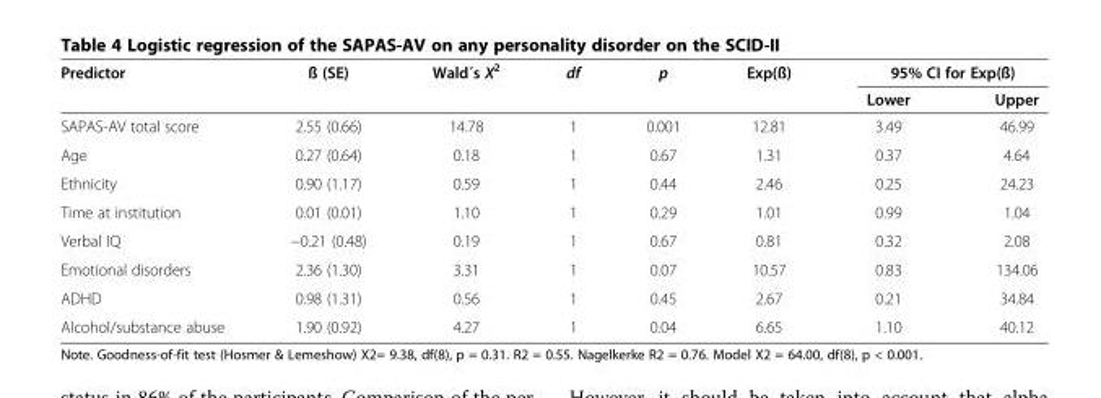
<table><thead><tr><td rowspan="2">Predictor</td><td rowspan="2">ß (SE)</td><td rowspan="2">Wald´s X2</td><td rowspan="2">df</td><td rowspan="2">p</td><td rowspan="2">Exp(ß)</td><td colspan="2">95% CI for Exp(ß)</td></tr><tr><td>Lower</td><td>Upper</td></tr></thead><tbody><tr><td>SAPAS-AV total score</td><td>2.55 (0.66)</td><td>14.78</td><td>1</td><td>0.001</td><td>12.81</td><td>3.49</td><td>46.99</td></tr><tr><td>Age</td><td>0.27 (0.64)</td><td>0.18</td><td>1</td><td>0.67</td><td>1.31</td><td>0.37</td><td>4.64</td></tr><tr><td>Ethnicity</td><td>0.90 (1.17)</td><td>0.59</td><td>1</td><td>0.44</td><td>2.46</td><td>0.25</td><td>24.23</td></tr><tr><td>Time at institution</td><td>0.01 (0.01)</td><td>1.10</td><td>1</td><td>0.29</td><td>1.01</td><td>0.99</td><td>1.04</td></tr><tr><td>Verbal IQ</td><td>−0.21 (0.48)</td><td>0.19</td><td>1</td><td>0.67</td><td>0.81</td><td>0.32</td><td>2.08</td></tr><tr><td>Emotional disorders</td><td>2.36 (1.30)</td><td>3.31</td><td>1</td><td>0.07</td><td>10.57</td><td>0.83</td><td>134.06</td></tr><tr><td>ADHD</td><td>0.98 (1.31)</td><td>0.56</td><td>1</td><td>0.45</td><td>2.67</td><td>0.21</td><td>34.84</td></tr><tr><td>Alcohol/substance abuse</td><td>1.90 (0.92)</td><td>4.27</td><td>1</td><td>0.04</td><td>6.65</td><td>1.10</td><td>40.12</td></tr></tbody></table>